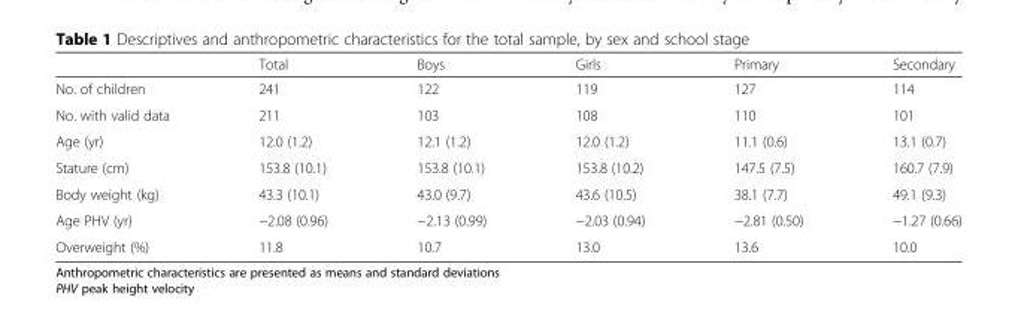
<table><thead><tr><td></td><td>Total</td><td>Boys</td><td>Girls</td><td>Primary</td><td>Secondary</td></tr></thead><tbody><tr><td>No. of children</td><td>241</td><td>122</td><td>119</td><td>127</td><td>114</td></tr><tr><td>No. with valid data</td><td>211</td><td>103</td><td>108</td><td>110</td><td>101</td></tr><tr><td>Age (yr)</td><td>12.0 (1.2)</td><td>12.1 (1.2)</td><td>12.0 (1.2)</td><td>11.1 (0.6)</td><td>13.1 (0.7)</td></tr><tr><td>Stature (cm)</td><td>153.8 (10.1)</td><td>153.8 (10.1)</td><td>153.8 (10.2)</td><td>147.5 (7.5)</td><td>160.7 (7.9)</td></tr><tr><td>Body weight (kg)</td><td>43.3 (10.1)</td><td>43.0 (9.7)</td><td>43.6 (10.5)</td><td>38.1 (7.7)</td><td>49.1 (9.3)</td></tr><tr><td>Age PHV (yr)</td><td>−2.08 (0.96)</td><td>−2.13 (0.99)</td><td>−2.03 (0.94)</td><td>−2.81 (0.50)</td><td>−1.27 (0.66)</td></tr><tr><td>Overweight (%)</td><td>11.8</td><td>10.7</td><td>13.0</td><td>13.6</td><td>10.0</td></tr></tbody></table>